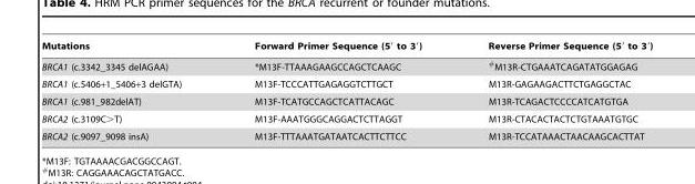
<table><thead><tr><td>Mutations</td><td>Forward Primer Sequence (5′ to 3′)</td><td>Reverse Primer Sequence (5′ to 3′)</td></tr></thead><tbody><tr><td>BRCA1 (c.3342_3345 delAGAA)</td><td>*M13F-TTAAAGAAGCCAGCTCAAGC</td><td>#M13R-CTGAAATCAGATATGGAGAG</td></tr><tr><td>BRCA1 (c.5406+1_5406+3 delGTA)</td><td>M13F-TCCCATTGAGAGGTCTTGCT</td><td>M13R-GAGAAGACTTCTGAGGCTAC</td></tr><tr><td>BRCA1 (c.981_982delAT)</td><td>M13F-TCATGCCAGCTCATTACAGC</td><td>M13R-TCAGACTCCCCATCATGTGA</td></tr><tr><td>BRCA2 (c.3109C&gt;T)</td><td>M13F-AAATGGGCAGGACTCTTAGGT</td><td>M13R-CTACACTACTCTGTAAATGTGC</td></tr><tr><td>BRCA2 (c.9097_9098 insA)</td><td>M13F-TTTAAATGATAATCACTTCTTCC</td><td>M13R-TCCATAAACTAACAAGCACTTAT</td></tr></tbody></table>